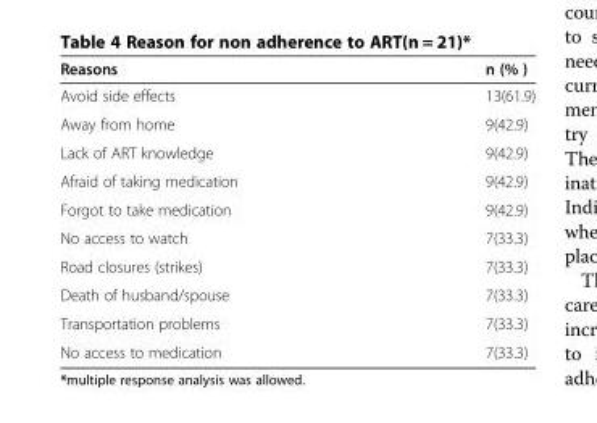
<table><thead><tr><td>Reasons</td><td>n (% )</td></tr></thead><tbody><tr><td>Avoid side effects</td><td>13(61.9)</td></tr><tr><td>Away from home</td><td>9(42.9)</td></tr><tr><td>Lack of ART knowledge</td><td>9(42.9)</td></tr><tr><td>Afraid of taking medication</td><td>9(42.9)</td></tr><tr><td>Forgot to take medication</td><td>9(42.9)</td></tr><tr><td>No access to watch</td><td>7(33.3)</td></tr><tr><td>Road closures (strikes)</td><td>7(33.3)</td></tr><tr><td>Death of husband/spouse</td><td>7(33.3)</td></tr><tr><td>Transportation problems</td><td>7(33.3)</td></tr><tr><td>No access to medication</td><td>7(33.3)</td></tr></tbody></table>